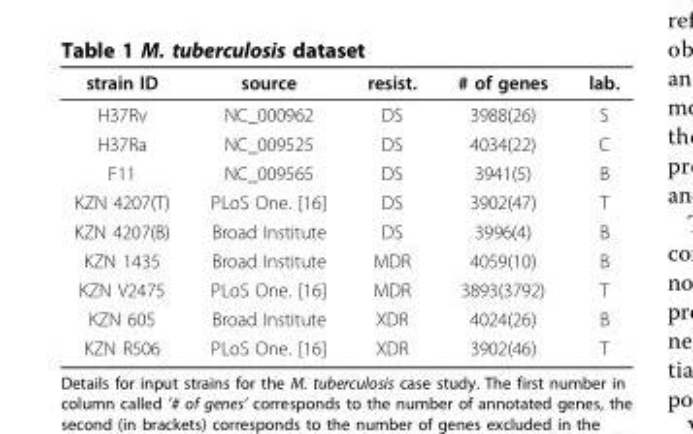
<table><thead><tr><td>strain ID</td><td>source</td><td>resist.</td><td># of genes</td><td>lab.</td></tr></thead><tbody><tr><td>H37Rv</td><td>NC_000962</td><td>DS</td><td>3988(26)</td><td>S</td></tr><tr><td>H37Ra</td><td>NC_009525</td><td>DS</td><td>4034(22)</td><td>C</td></tr><tr><td>F11</td><td>NC_009565</td><td>DS</td><td>3941(5)</td><td>B</td></tr><tr><td>KZN 4207(T)</td><td>PLoS One. [16]</td><td>DS</td><td>3902(47)</td><td>T</td></tr><tr><td>KZN 4207(B)</td><td>Broad Institute</td><td>DS</td><td>3996(4)</td><td>B</td></tr><tr><td>KZN 1435</td><td>Broad Institute</td><td>MDR</td><td>4059(10)</td><td>B</td></tr><tr><td>KZN V2475</td><td>PLoS One. [16]</td><td>MDR</td><td>3893(3792)</td><td>T</td></tr><tr><td>KZN 605</td><td>Broad Institute</td><td>XDR</td><td>4024(26)</td><td>B</td></tr><tr><td>KZN R506</td><td>PLoS One. [16]</td><td>XDR</td><td>3902(46)</td><td>T</td></tr></tbody></table>